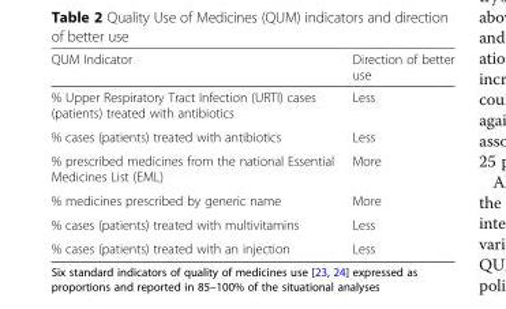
<table><thead><tr><td>QUM Indicator</td><td>Direction of better use</td></tr></thead><tbody><tr><td>% Upper Respiratory Tract Infection (URTI) cases (patients) treated with antibiotics</td><td>Less</td></tr><tr><td>% cases (patients) treated with antibiotics</td><td>Less</td></tr><tr><td>% prescribed medicines from the national Essential Medicines List (EML)</td><td>More</td></tr><tr><td>% medicines prescribed by generic name</td><td>More</td></tr><tr><td>% cases (patients) treated with multivitamins</td><td>Less</td></tr><tr><td>% cases (patients) treated with an injection</td><td>Less</td></tr></tbody></table>